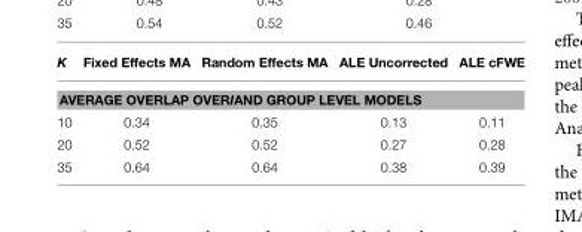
<table><thead><tr><td>K</td><td>Fixed Effects MA</td><td>Random Effects MA</td><td>ALE Uncorrected</td><td>ALE cFWE</td></tr></thead><tbody><tr><td colspan="5">AVERAGE OVERLAP OVERIAND GROUP LEVEL MODELS</td></tr><tr><td>10</td><td>0.34</td><td>0.35</td><td>0.13</td><td>0.11</td></tr><tr><td>20</td><td>0.52</td><td>0.52</td><td>0.27</td><td>0.28</td></tr><tr><td>35</td><td>0.64</td><td>0.64</td><td>0.38</td><td>0.39</td></tr></tbody></table>